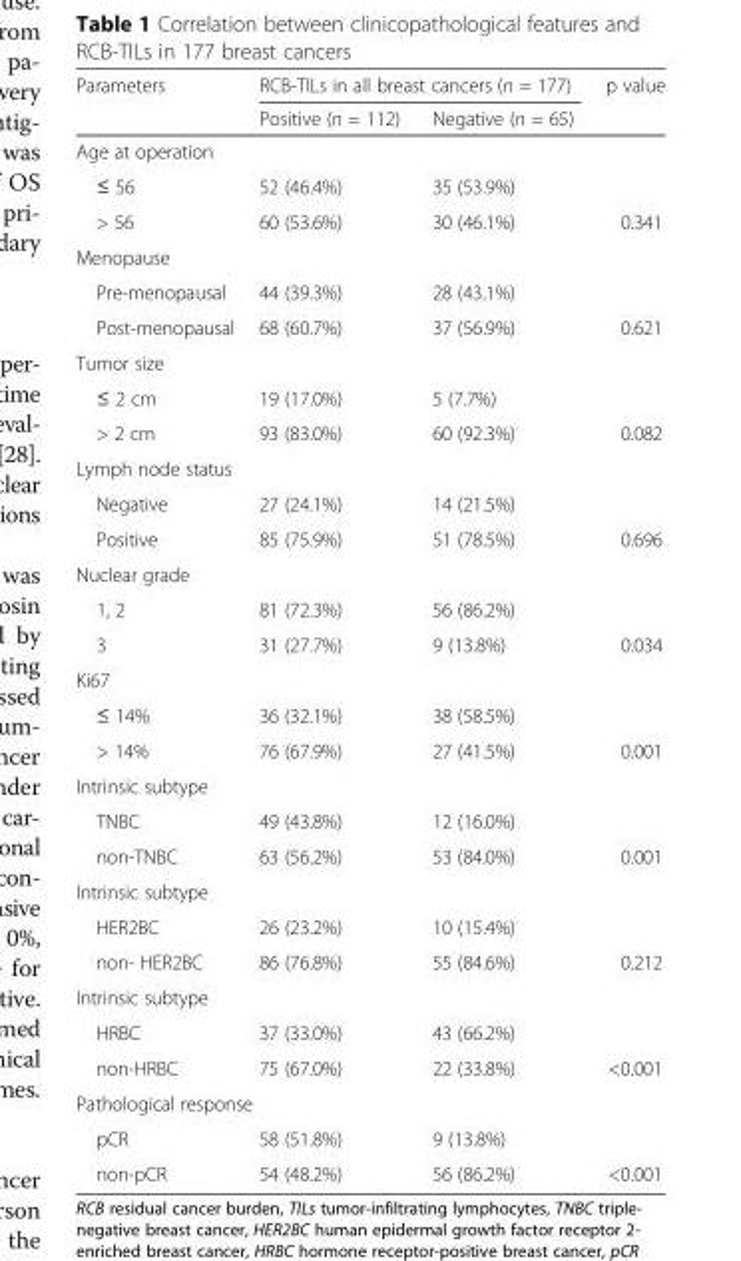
<table><thead><tr><td rowspan="2">Parameters</td><td colspan="2">RCB-TILs in all breast cancers (n = 177)</td><td rowspan="2">p value</td></tr><tr><td>Positive (n = 112)</td><td>Negative (n = 65)</td></tr></thead><tbody><tr><td colspan="4">Age at operation</td></tr><tr><td>≤ 56</td><td>52 (46.4%)</td><td>35 (53.9%)</td><td></td></tr><tr><td>&gt; 56</td><td>60 (53.6%)</td><td>30 (46.1%)</td><td>0.341</td></tr><tr><td colspan="4">Menopause</td></tr><tr><td>Pre-menopausal</td><td>44 (39.3%)</td><td>28 (43.1%)</td><td></td></tr><tr><td>Post-menopausal</td><td>68 (60.7%)</td><td>37 (56.9%)</td><td>0.621</td></tr><tr><td colspan="4">Tumor size</td></tr><tr><td>≤ 2 cm</td><td>19 (17.0%)</td><td>5 (7.7%)</td><td></td></tr><tr><td>&gt; 2 cm</td><td>93 (83.0%)</td><td>60 (92.3%)</td><td>0.082</td></tr><tr><td colspan="4">Lymph node status</td></tr><tr><td>Negative</td><td>27 (24.1%)</td><td>14 (21.5%)</td><td></td></tr><tr><td>Positive</td><td>85 (75.9%)</td><td>51 (78.5%)</td><td>0.696</td></tr><tr><td colspan="4">Nuclear grade</td></tr><tr><td>1, 2</td><td>81 (72.3%)</td><td>56 (86.2%)</td><td></td></tr><tr><td>3</td><td>31 (27.7%)</td><td>9 (13.8%)</td><td>0.034</td></tr><tr><td colspan="4">Ki67</td></tr><tr><td>≤ 14%</td><td>36 (32.1%)</td><td>38 (58.5%)</td><td></td></tr><tr><td>&gt; 14%</td><td>76 (67.9%)</td><td>27 (41.5%)</td><td>0.001</td></tr><tr><td colspan="4">Intrinsic subtype</td></tr><tr><td>TNBC</td><td>49 (43.8%)</td><td>12 (16.0%)</td><td></td></tr><tr><td>non-TNBC</td><td>63 (56.2%)</td><td>53 (84.0%)</td><td>0.001</td></tr><tr><td colspan="4">Intrinsic subtype</td></tr><tr><td>HER2BC</td><td>26 (23.2%)</td><td>10 (15.4%)</td><td></td></tr><tr><td>non- HER2BC</td><td>86 (76.8%)</td><td>55 (84.6%)</td><td>0.212</td></tr><tr><td colspan="4">Intrinsic subtype</td></tr><tr><td>HRBC</td><td>37 (33.0%)</td><td>43 (66.2%)</td><td></td></tr><tr><td>non-HRBC</td><td>75 (67.0%)</td><td>22 (33.8%)</td><td>&lt;0.001</td></tr><tr><td colspan="4">Pathological response</td></tr><tr><td>pCR</td><td>58 (51.8%)</td><td>9 (13.8%)</td><td></td></tr><tr><td>non-pCR</td><td>54 (48.2%)</td><td>56 (86.2%)</td><td>&lt;0.001</td></tr></tbody></table>